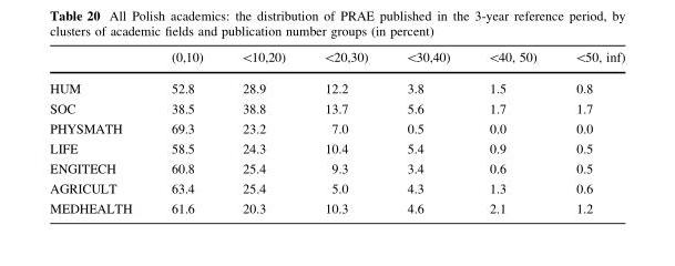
<table><thead><tr><td></td><td>(0,10)</td><td>&lt;10,20)</td><td>&lt;20,30)</td><td>&lt;30,40)</td><td>&lt;40, 50)</td><td>&lt;50, inf)</td></tr></thead><tbody><tr><td>HUM</td><td>52.8</td><td>28.9</td><td>12.2</td><td>3.8</td><td>1.5</td><td>0.8</td></tr><tr><td>SOC</td><td>38.5</td><td>38.8</td><td>13.7</td><td>5.6</td><td>1.7</td><td>1.7</td></tr><tr><td>PHYSMATH</td><td>69.3</td><td>23.2</td><td>7.0</td><td>0.5</td><td>0.0</td><td>0.0</td></tr><tr><td>LIFE</td><td>58.5</td><td>24.3</td><td>10.4</td><td>5.4</td><td>0.9</td><td>0.5</td></tr><tr><td>ENGITECH</td><td>60.8</td><td>25.4</td><td>9.3</td><td>3.4</td><td>0.6</td><td>0.5</td></tr><tr><td>AGRICULT</td><td>63.4</td><td>25.4</td><td>5.0</td><td>4.3</td><td>1.3</td><td>0.6</td></tr><tr><td>MEDHEALTH</td><td>61.6</td><td>20.3</td><td>10.3</td><td>4.6</td><td>2.1</td><td>1.2</td></tr></tbody></table>